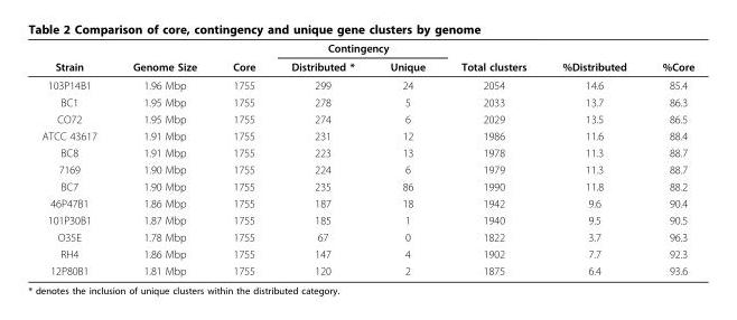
<table><thead><tr><td rowspan="2">Strain</td><td rowspan="2">Genome Size</td><td rowspan="2">Core</td><td colspan="2">Contingency</td><td rowspan="2">Total clusters</td><td rowspan="2">%Distributed</td><td rowspan="2">%Core</td></tr><tr><td>Distributed *</td><td>Unique</td></tr></thead><tbody><tr><td>103P14B1</td><td>1.96 Mbp</td><td>1755</td><td>299</td><td>24</td><td>2054</td><td>14.6</td><td>85.4</td></tr><tr><td>BC1</td><td>1.95 Mbp</td><td>1755</td><td>278</td><td>5</td><td>2033</td><td>13.7</td><td>86.3</td></tr><tr><td>CO72</td><td>1.95 Mbp</td><td>1755</td><td>274</td><td>6</td><td>2029</td><td>13.5</td><td>86.5</td></tr><tr><td>ATCC 43617</td><td>1.91 Mbp</td><td>1755</td><td>231</td><td>12</td><td>1986</td><td>11.6</td><td>88.4</td></tr><tr><td>BC8</td><td>1.91 Mbp</td><td>1755</td><td>223</td><td>13</td><td>1978</td><td>11.3</td><td>88.7</td></tr><tr><td>7169</td><td>1.90 Mbp</td><td>1755</td><td>224</td><td>6</td><td>1979</td><td>11.3</td><td>88.7</td></tr><tr><td>BC7</td><td>1.90 Mbp</td><td>1755</td><td>235</td><td>86</td><td>1990</td><td>11.8</td><td>88.2</td></tr><tr><td>46P47B1</td><td>1.86 Mbp</td><td>1755</td><td>187</td><td>18</td><td>1942</td><td>9.6</td><td>90.4</td></tr><tr><td>101P30B1</td><td>1.87 Mbp</td><td>1755</td><td>185</td><td>1</td><td>1940</td><td>9.5</td><td>90.5</td></tr><tr><td>O35E</td><td>1.78 Mbp</td><td>1755</td><td>67</td><td>0</td><td>1822</td><td>3.7</td><td>96.3</td></tr><tr><td>RH4</td><td>1.86 Mbp</td><td>1755</td><td>147</td><td>4</td><td>1902</td><td>7.7</td><td>92.3</td></tr><tr><td>12P80B1</td><td>1.81 Mbp</td><td>1755</td><td>120</td><td>2</td><td>1875</td><td>6.4</td><td>93.6</td></tr></tbody></table>